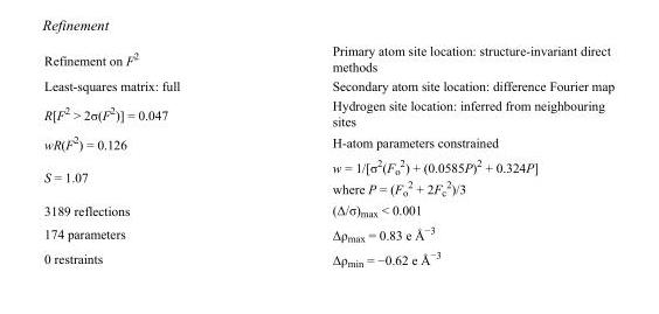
<table><tbody><tr><td>Refinement on F<sup>2</sup></td><td>Primary atom site location: structure-invariant direct methods</td></tr><tr><td>Least-squares matrix: full</td><td>Secondary atom site location: difference Fourier map</td></tr><tr><td>R[F<sup>2</sup> &gt; 2σ(F<sup>2</sup>)] = 0.047</td><td>Hydrogen site location: inferred from neighbouring sites</td></tr><tr><td>wR(F<sup>2</sup>) = 0.126</td><td>H-atom parameters constrained</td></tr><tr><td>S = 1.07</td><td>w = 1/[σ<sup>2</sup>(F<sub>o</sub> <sup>2</sup>) + (0.0585P)<sup>2</sup> + 0.324P] where P = (F<sub>o</sub> <sup>2</sup> + 2F<sub>c</sub> <sup>2</sup>)/3</td></tr><tr><td>3189 reflections</td><td>(Δ/σ)<sub>max</sub> &lt; 0.001</td></tr><tr><td>174 parameters</td><td>Δρ<sub>max</sub> = 0.83 e Å<sup>−3</sup></td></tr><tr><td>0 restraints</td><td>Δρ<sub>min</sub> = −0.62 e Å<sup>−3</sup></td></tr></tbody></table>